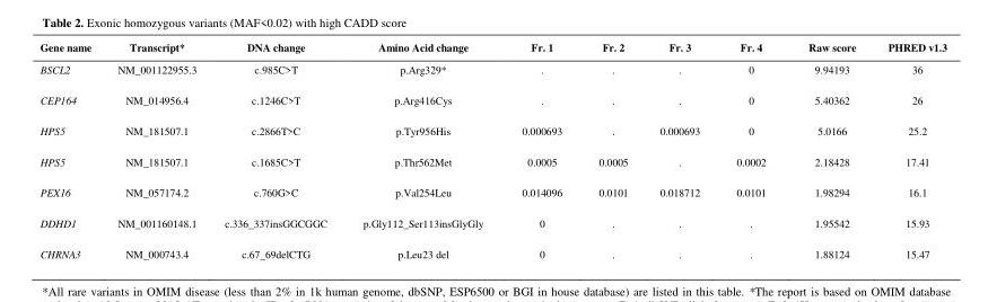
<table><thead><tr><td>Gene name</td><td>Transcript*</td><td>DNA change</td><td>Amino Acid change</td><td>Fr. 1</td><td>Fr. 2</td><td>Fr. 3</td><td>Fr. 4</td><td>Raw score</td><td>PHRED v1.3</td></tr></thead><tbody><tr><td>BSCL2</td><td>NM_001122955.3</td><td>c.985C&gt;T</td><td>p.Arg329*</td><td>.</td><td>.</td><td>.</td><td>0</td><td>9.94193</td><td>36</td></tr><tr><td>CEP164</td><td>NM_014956.4</td><td>c.1246C&gt;T</td><td>p.Arg416Cys</td><td>.</td><td>.</td><td>.</td><td>0</td><td>5.40362</td><td>26</td></tr><tr><td>HPS5</td><td>NM_181507.1</td><td>c.2866T&gt;C</td><td>p.Tyr956His</td><td>0.000693</td><td>.</td><td>0.000693</td><td>0</td><td>5.0166</td><td>25.2</td></tr><tr><td>HPS5</td><td>NM_181507.1</td><td>c.1685C&gt;T</td><td>p.Thr562Met</td><td>0.0005</td><td>0.0005</td><td>.</td><td>0.0002</td><td>2.18428</td><td>17.41</td></tr><tr><td>PEX16</td><td>NM_057174.2</td><td>c.760G&gt;C</td><td>p.Val254Leu</td><td>0.014096</td><td>0.0101</td><td>0.018712</td><td>0.0101</td><td>1.98294</td><td>16.1</td></tr><tr><td>DDHD1</td><td>NM_001160148.1</td><td>c.336_337insGGCGGC</td><td>p.Gly112_Ser113insGlyGly</td><td>0</td><td>.</td><td>.</td><td>.</td><td>1.95542</td><td>15.93</td></tr><tr><td>CHRNA3</td><td>NM_000743.4</td><td>c.67_69delCTG</td><td>p.Leu23 del</td><td>0</td><td>.</td><td>.</td><td>.</td><td>1.88124</td><td>15.47</td></tr></tbody></table>